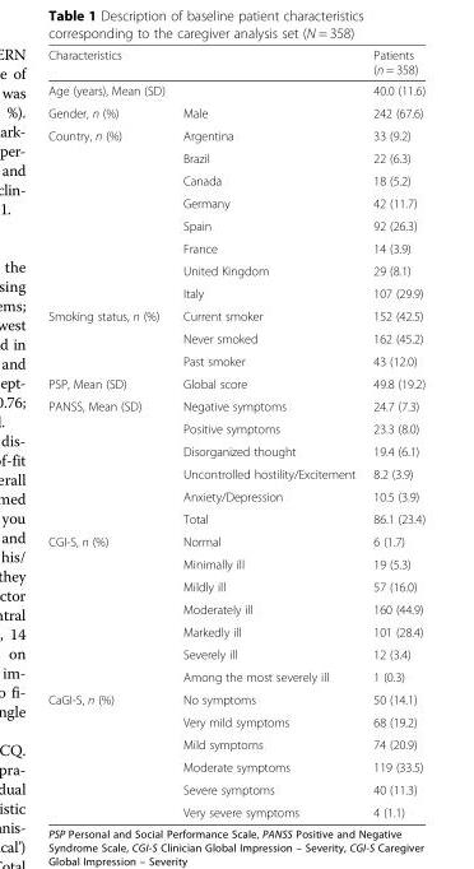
<table><thead><tr><td>Characteristics</td><td></td><td>Patients (n = 358)</td></tr></thead><tbody><tr><td>Age (years), Mean (SD)</td><td></td><td>40.0 (11.6)</td></tr><tr><td>Gender, n (%)</td><td>Male</td><td>242 (67.6)</td></tr><tr><td rowspan="8">Country, n (%)</td><td>Argentina</td><td>33 (9.2)</td></tr><tr><td>Brazil</td><td>22 (6.3)</td></tr><tr><td>Canada</td><td>18 (5.2)</td></tr><tr><td>Germany</td><td>42 (11.7)</td></tr><tr><td>Spain</td><td>92 (26.3)</td></tr><tr><td>France</td><td>14 (3.9)</td></tr><tr><td>United Kingdom</td><td>29 (8.1)</td></tr><tr><td>Italy</td><td>107 (29.9)</td></tr><tr><td rowspan="3">Smoking status, n (%)</td><td>Current smoker</td><td>152 (42.5)</td></tr><tr><td>Never smoked</td><td>162 (45.2)</td></tr><tr><td>Past smoker</td><td>43 (12.0)</td></tr><tr><td>PSP, Mean (SD)</td><td>Global score</td><td>49.8 (19.2)</td></tr><tr><td rowspan="6">PANSS, Mean (SD)</td><td>Negative symptoms</td><td>24.7 (7.3)</td></tr><tr><td>Positive symptoms</td><td>23.3 (8.0)</td></tr><tr><td>Disorganized thought</td><td>19.4 (6.1)</td></tr><tr><td>Uncontrolled hostility/Excitement</td><td>8.2 (3.9)</td></tr><tr><td>Anxiety/Depression</td><td>10.5 (3.9)</td></tr><tr><td>Total</td><td>86.1 (23.4)</td></tr><tr><td rowspan="7">CGI-S, n (%)</td><td>Normal</td><td>6 (1.7)</td></tr><tr><td>Minimally ill</td><td>19 (5.3)</td></tr><tr><td>Mildly ill</td><td>57 (16.0)</td></tr><tr><td>Moderately ill</td><td>160 (44.9)</td></tr><tr><td>Markedly ill</td><td>101 (28.4)</td></tr><tr><td>Severely ill</td><td>12 (3.4)</td></tr><tr><td>Among the most severely ill</td><td>1 (0.3)</td></tr><tr><td rowspan="6">CaGI-S, n (%)</td><td>No symptoms</td><td>50 (14.1)</td></tr><tr><td>Very mild symptoms</td><td>68 (19.2)</td></tr><tr><td>Mild symptoms</td><td>74 (20.9)</td></tr><tr><td>Moderate symptoms</td><td>119 (33.5)</td></tr><tr><td>Severe symptoms</td><td>40 (11.3)</td></tr><tr><td>Very severe symptoms</td><td>4 (1.1)</td></tr></tbody></table>